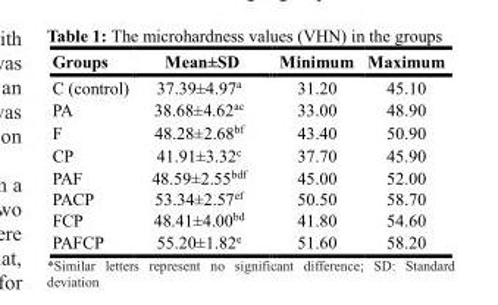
<table><thead><tr><td>Groups</td><td>Mean±SD</td><td>Minimum</td><td>Maximum</td></tr></thead><tbody><tr><td>C (control)</td><td>37.39±4.97<sup>a</sup></td><td>31.20</td><td>45.10</td></tr><tr><td>PA</td><td>38.68±4.62<sup>ac</sup></td><td>33.00</td><td>48.90</td></tr><tr><td>F</td><td>48.28±2.68<sup>bf</sup></td><td>43.40</td><td>50.90</td></tr><tr><td>CP</td><td>41.91±3.32<sup>c</sup></td><td>37.70</td><td>45.90</td></tr><tr><td>PAF</td><td>48.59±2.55<sup>bdf</sup></td><td>45.00</td><td>52.00</td></tr><tr><td>PACP</td><td>53.34±2.57<sup>ef</sup></td><td>50.50</td><td>58.70</td></tr><tr><td>FCP</td><td>48.41±4.00<sup>bd</sup></td><td>41.80</td><td>54.60</td></tr><tr><td>PAFCP</td><td>55.20±1.82<sup>e</sup></td><td>51.60</td><td>58.20</td></tr></tbody></table>